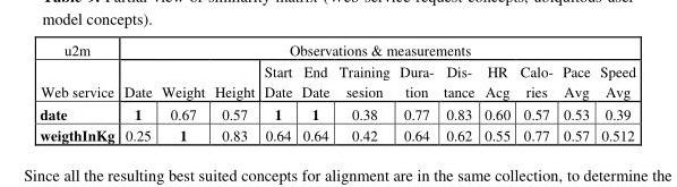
<table><thead><tr><td rowspan="2">u2m Web service</td><td colspan="12">Observations &amp; measurements</td></tr><tr><td>Date</td><td>Weight</td><td>Height</td><td>Start Date</td><td>End Date</td><td>Training sesion</td><td>Dura- tion</td><td>Dis- tance</td><td>HR Acg</td><td>Calo- ries</td><td>Pace Avg</td><td>Speed Avg</td></tr></thead><tbody><tr><td>date</td><td>1</td><td>0.67</td><td>0.57</td><td>1</td><td>1</td><td>0.38</td><td>0.77</td><td>0.83</td><td>0.60</td><td>0.57</td><td>0.53</td><td>0.39</td></tr><tr><td>weigthInKg</td><td>0.25</td><td>1</td><td>0.83</td><td>0.64</td><td>0.64</td><td>0.42</td><td>0.64</td><td>0.62</td><td>0.55</td><td>0.77</td><td>0.57</td><td>0.512</td></tr></tbody></table>